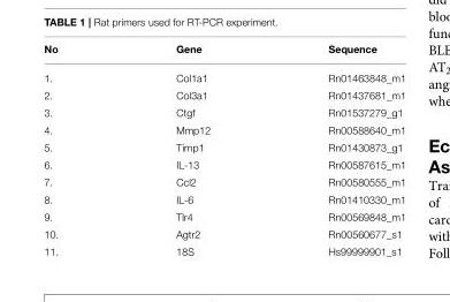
<table><thead><tr><td>No</td><td>Gene</td><td>Sequence</td></tr></thead><tbody><tr><td>1.</td><td>Col1a1</td><td>Rn01463848_m1</td></tr><tr><td>2.</td><td>Col3a1</td><td>Rn01437681_m1</td></tr><tr><td>3.</td><td>Ctgf</td><td>Rn01537279_g1</td></tr><tr><td>4.</td><td>Mmp12</td><td>Rn00588640_m1</td></tr><tr><td>5.</td><td>Timp1</td><td>Rn01430873_g1</td></tr><tr><td>6.</td><td>IL-13</td><td>Rn00587615_m1</td></tr><tr><td>7.</td><td>Ccl2</td><td>Rn00580555_m1</td></tr><tr><td>8.</td><td>IL-6</td><td>Rn01410330_m1</td></tr><tr><td>9.</td><td>Tlr4</td><td>Rn00569848_m1</td></tr><tr><td>10.</td><td>Agtr2</td><td>Rn00560677_s1</td></tr><tr><td>11.</td><td>18S</td><td>Hs99999901_s1</td></tr></tbody></table>